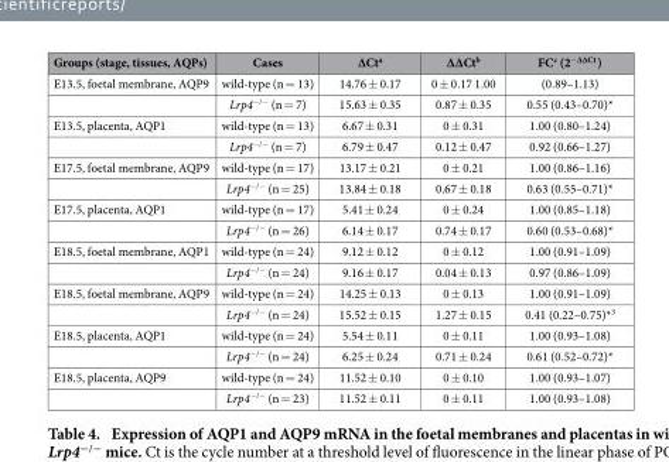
<table><thead><tr><td>Groups (stage, tissues, AQPs)</td><td>Cases</td><td>∆Ct<sup>a</sup></td><td>∆∆Ct<sup>b</sup></td><td>FC<sup>c</sup> (2<sup>−∆∆Ct</sup> )</td></tr></thead><tbody><tr><td rowspan="2">E13.5, foetal membrane, AQP9</td><td>wild-type (n = 13)</td><td>14.76 ± 0.17</td><td>0 ± 0.17 1.00</td><td>(0.89–1.13)</td></tr><tr><td>Lrp4<sup>−/−</sup> (n = 7)</td><td>15.63 ± 0.35</td><td>0.87 ± 0.35</td><td>0.55 (0.43–0.70)*</td></tr><tr><td rowspan="2">E13.5, placenta, AQP1</td><td>wild-type (n = 13)</td><td>6.67 ± 0.31</td><td>0 ± 0.31</td><td>1.00 (0.80–1.24)</td></tr><tr><td>Lrp4<sup>−/−</sup> (n = 7)</td><td>6.79 ± 0.47</td><td>0.12 ± 0.47</td><td>0.92 (0.66–1.27)</td></tr><tr><td rowspan="2">E17.5, foetal membrane, AQP9</td><td>wild-type (n = 17)</td><td>13.17 ± 0.21</td><td>0 ± 0.21</td><td>1.00 (0.86–1.16)</td></tr><tr><td>Lrp4<sup>−/−</sup> (n = 25)</td><td>13.84 ± 0.18</td><td>0.67 ± 0.18</td><td>0.63 (0.55–0.71)*</td></tr><tr><td rowspan="2">E17.5, placenta, AQP1</td><td>wild-type (n = 17)</td><td>5.41 ± 0.24</td><td>0 ± 0.24</td><td>1.00 (0.85–1.18)</td></tr><tr><td>Lrp4<sup>−/−</sup> (n = 26)</td><td>6.14 ± 0.17</td><td>0.74 ± 0.17</td><td>0.60 (0.53–0.68)*</td></tr><tr><td rowspan="2">E18.5, foetal membrane, AQP1</td><td>wild-type (n = 24)</td><td>9.12 ± 0.12</td><td>0 ± 0.12</td><td>1.00 (0.91–1.09)</td></tr><tr><td>Lrp4<sup>−/−</sup> (n = 24)</td><td>9.16 ± 0.17</td><td>0.04 ± 0.13</td><td>0.97 (0.86–1.09)</td></tr><tr><td rowspan="2">E18.5, foetal membrane, AQP9</td><td>wild-type (n = 24)</td><td>14.25 ± 0.13</td><td>0 ± 0.13</td><td>1.00 (0.91–1.09)</td></tr><tr><td>Lrp4<sup>−/−</sup> (n = 24)</td><td>15.52 ± 0.15</td><td>1.27 ± 0.15</td><td>0.41 (0.22–0.75)*3</td></tr><tr><td rowspan="2">E18.5, placenta, AQP1</td><td>wild-type (n = 24)</td><td>5.54 ± 0.11</td><td>0 ± 0.11</td><td>1.00 (0.93–1.08)</td></tr><tr><td>Lrp4<sup>−/−</sup> (n = 24)</td><td>6.25 ± 0.24</td><td>0.71 ± 0.24</td><td>0.61 (0.52–0.72)*</td></tr><tr><td rowspan="2">E18.5, placenta, AQP9</td><td>wild-type (n = 24)</td><td>11.52 ± 0.10</td><td>0 ± 0.10</td><td>1.00 (0.93–1.07)</td></tr><tr><td>Lrp4<sup>−/−</sup> (n = 23)</td><td>11.52 ± 0.11</td><td>0 ± 0.11</td><td>1.00 (0.93–1.08)</td></tr></tbody></table>